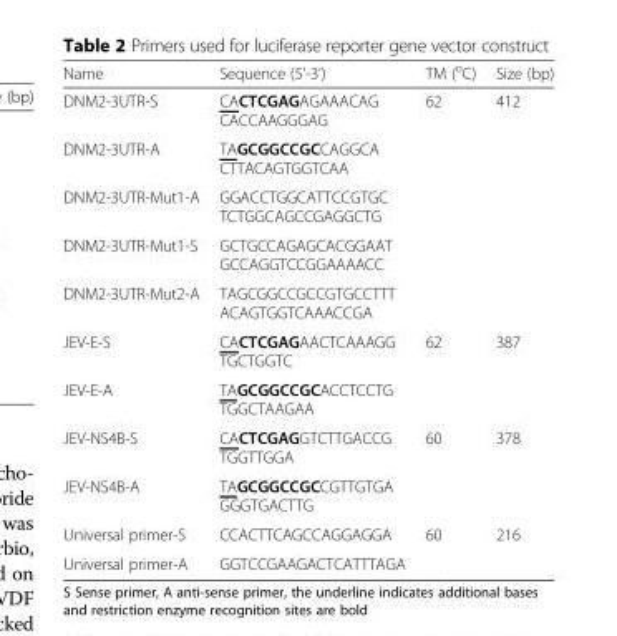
<table><thead><tr><td>Name</td><td>Sequence (5’-3’)</td><td>TM (<sup>o</sup>C)</td><td>Size (bp)</td></tr></thead><tbody><tr><td>DNM2-3UTR-S</td><td>CACTCGAGAGAAACAG CACCAAGGGAG</td><td>62</td><td>412</td></tr><tr><td>DNM2-3UTR-A</td><td>TAGCGGCCGCCAGGCA CTTACAGTGGTCAA</td><td></td><td></td></tr><tr><td>DNM2-3UTR-Mut1-A</td><td>GGACCTGGCATTCCGTGC TCTGGCAGCCGAGGCTG</td><td></td><td></td></tr><tr><td>DNM2-3UTR-Mut1-S</td><td>GCTGCCAGAGCACGGAAT GCCAGGTCCGGAAAACC</td><td></td><td></td></tr><tr><td>DNM2-3UTR-Mut2-A</td><td>TAGCGGCCGCCGTGCCTTT ACAGTGGTCAAACCGA</td><td></td><td></td></tr><tr><td>JEV-E-S</td><td>CACTCGAGAACTCAAAGG TGCTGGTC</td><td>62</td><td>387</td></tr><tr><td>JEV-E-A</td><td>TAGCGGCCGCACCTCCTG TGGCTAAGAA</td><td></td><td></td></tr><tr><td>JEV-NS4B-S</td><td>CACTCGAGGTCTTGACCG TGGTTGGA</td><td>60</td><td>378</td></tr><tr><td>JEV-NS4B-A</td><td>TAGCGGCCGCCGTTGTGA GGGTGACTTG</td><td></td><td></td></tr><tr><td>Universal primer-S</td><td>CCACTTCAGCCAGGAGGA</td><td>60</td><td>216</td></tr><tr><td>Universal primer-A</td><td>GGTCCGAAGACTCATTTAGA</td><td></td><td></td></tr></tbody></table>